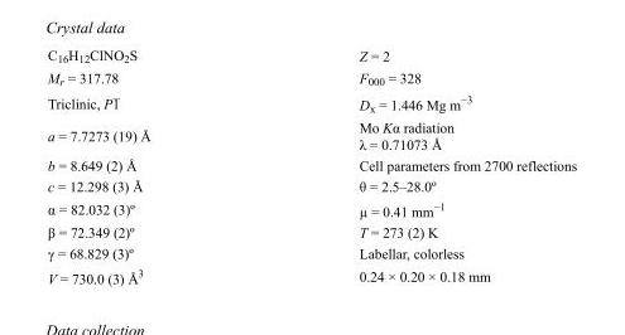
<table><tbody><tr><td>C<sub>16</sub>H<sub>12</sub>ClNO<sub>2</sub>S</td><td>Z = 2</td></tr><tr><td>M<sub>r</sub> = 317.78</td><td>F<sub>000</sub> = 328</td></tr><tr><td>Triclinic, P1</td><td>D<sub>x</sub> = 1.446 Mg m<sup>−3</sup></td></tr><tr><td>a = 7.7273 (19) Å</td><td>Mo Kα radiation λ = 0.71073 Å</td></tr><tr><td>b = 8.649 (2) Å</td><td>Cell parameters from 2700 reflections</td></tr><tr><td>c = 12.298 (3) Å</td><td>θ = 2.5–28.0º</td></tr><tr><td>α = 82.032 (3)º</td><td>µ = 0.41 mm<sup>−1</sup></td></tr><tr><td>β = 72.349 (2)º</td><td>T = 273 (2) K</td></tr><tr><td>γ = 68.829 (3)º</td><td>Labellar, colorless</td></tr><tr><td>V = 730.0 (3) Å<sup>3</sup></td><td>0.24 × 0.20 × 0.18 mm</td></tr></tbody></table>